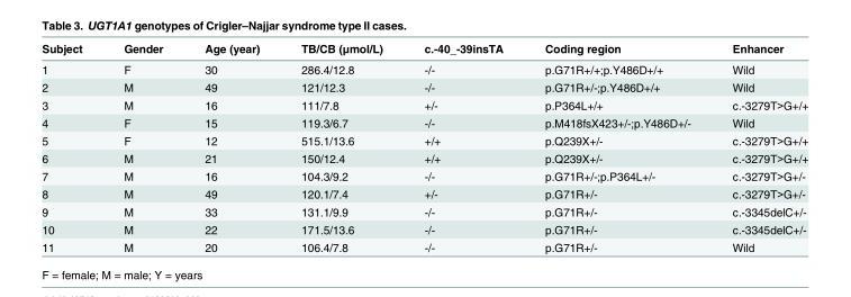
<table><thead><tr><td>Subject</td><td>Gender</td><td>Age (year)</td><td>TB/CB (μmol/L)</td><td>c.-40_-39insTA</td><td>Coding region</td><td>Enhancer</td></tr></thead><tbody><tr><td>1</td><td>F</td><td>30</td><td>286.4/12.8</td><td>-/-</td><td>p.G71R+/+;p.Y486D+/+</td><td>Wild</td></tr><tr><td>2</td><td>M</td><td>49</td><td>121/12.3</td><td>-/-</td><td>p.G71R+/-;p.Y486D+/+</td><td>Wild</td></tr><tr><td>3</td><td>M</td><td>16</td><td>111/7.8</td><td>+/-</td><td>p.P364L+/+</td><td>c.-3279T&gt;G+/+</td></tr><tr><td>4</td><td>F</td><td>15</td><td>119.3/6.7</td><td>-/-</td><td>p.M418fsX423+/-;p.Y486D+/-</td><td>Wild</td></tr><tr><td>5</td><td>F</td><td>12</td><td>515.1/13.6</td><td>+/+</td><td>p.Q239X+/-</td><td>c.-3279T&gt;G+/+</td></tr><tr><td>6</td><td>M</td><td>21</td><td>150/12.4</td><td>+/+</td><td>p.Q239X+/-</td><td>c.-3279T&gt;G+/+</td></tr><tr><td>7</td><td>M</td><td>16</td><td>104.3/9.2</td><td>-/-</td><td>p.G71R+/-;p.P364L+/-</td><td>c.-3279T&gt;G+/-</td></tr><tr><td>8</td><td>M</td><td>49</td><td>120.1/7.4</td><td>+/-</td><td>p.G71R+/-</td><td>c.-3279T&gt;G+/-</td></tr><tr><td>9</td><td>M</td><td>33</td><td>131.1/9.9</td><td>-/-</td><td>p.G71R+/-</td><td>c.-3345delC+/-</td></tr><tr><td>10</td><td>M</td><td>22</td><td>171.5/13.6</td><td>-/-</td><td>p.G71R+/-</td><td>c.-3345delC+/-</td></tr><tr><td>11</td><td>M</td><td>20</td><td>106.4/7.8</td><td>-/-</td><td>p.G71R+/-</td><td>Wild</td></tr></tbody></table>